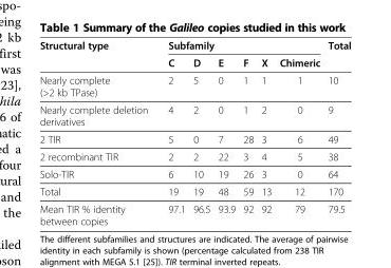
<table><thead><tr><td rowspan="2">Structural type</td><td colspan="6">Subfamily</td><td rowspan="2">Total</td></tr><tr><td>C</td><td>D</td><td>E</td><td>F</td><td>X</td><td>Chimeric</td></tr></thead><tbody><tr><td>Nearly complete (&gt;2 kb TPase)</td><td>2</td><td>5</td><td>0</td><td>1</td><td>1</td><td>1</td><td>10</td></tr><tr><td>Nearly complete deletion derivatives</td><td>4</td><td>2</td><td>0</td><td>1</td><td>2</td><td>0</td><td>9</td></tr><tr><td>2 TIR</td><td>5</td><td>0</td><td>7</td><td>28</td><td>3</td><td>6</td><td>49</td></tr><tr><td>2 recombinant TIR</td><td>2</td><td>2</td><td>22</td><td>3</td><td>4</td><td>5</td><td>38</td></tr><tr><td>Solo-TIR</td><td>6</td><td>10</td><td>19</td><td>26</td><td>3</td><td>0</td><td>64</td></tr><tr><td>Total</td><td>19</td><td>19</td><td>48</td><td>59</td><td>13</td><td>12</td><td>170</td></tr><tr><td>Mean TIR % identity between copies</td><td>97.1</td><td>96.5</td><td>93.9</td><td>92</td><td>92</td><td>79</td><td>79.5</td></tr></tbody></table>